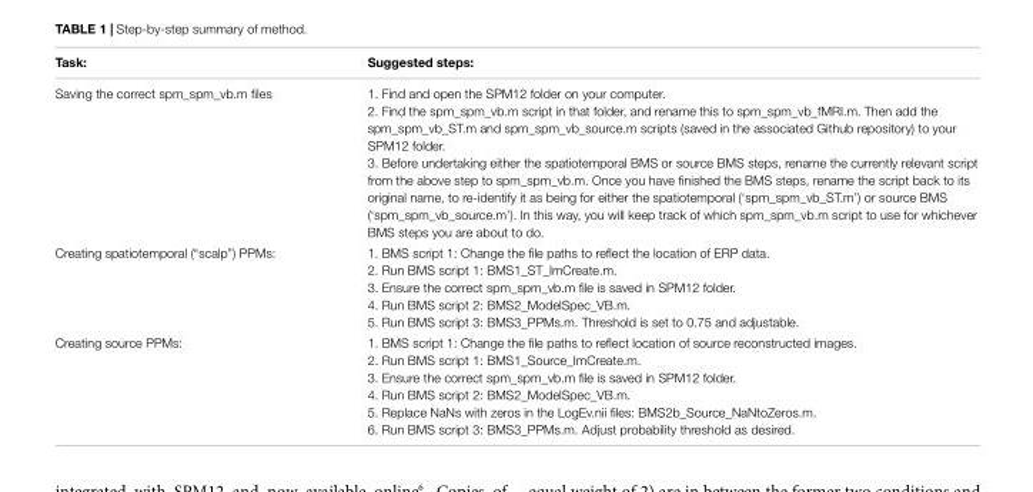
<table><thead><tr><td>Task:</td><td>Suggested steps:</td></tr></thead><tbody><tr><td>Saving the correct spm_spm_vb.m files</td><td>1. Find and open the SPM12 folder on your computer. 2. Find the spm_spm_vb.m script in that folder, and rename this to spm_spm_vb_fMRI.m. Then add the spm_spm_vb_ST.m and spm_spm_vb_source.m scripts (saved in the associated Github repository) to your SPM12 folder. 3. Before undertaking either the spatiotemporal BMS or source BMS steps, rename the currently relevant script from the above step to spm_spm_vb.m. Once you have finished the BMS steps, rename the script back to its original name, to re-identify it as being for either the spatiotemporal (‘spm_spm_vb_ST.m’) or source BMS (‘spm_spm_vb_source.m’). In this way, you will keep track of which spm_spm_vb.m script to use for whichever BMS steps you are about to do.</td></tr><tr><td>Creating spatiotemporal (“scalp”) PPMs:</td><td>1. BMS script 1: Change the file paths to reflect the location of ERP data. 2. Run BMS script 1: BMS1_ST_ImCreate.m. 3. Ensure the correct spm_spm_vb.m file is saved in SPM12 folder. 4. Run BMS script 2: BMS2_ModelSpec_VB.m. 5. Run BMS script 3: BMS3_PPMs.m. Threshold is set to 0.75 and adjustable.</td></tr><tr><td>Creating source PPMs:</td><td>1. BMS script 1: Change the file paths to reflect location of source reconstructed images. 2. Run BMS script 1: BMS1_Source_ImCreate.m. 3. Ensure the correct spm_spm_vb.m file is saved in SPM12 folder. 4. Run BMS script 2: BMS2_ModelSpec_VB.m. 5. Replace NaNs with zeros in the LogEv.nii files: BMS2b_Source_NaNtoZeros.m. 6. Run BMS script 3: BMS3_PPMs.m. Adjust probability threshold as desired.</td></tr></tbody></table>